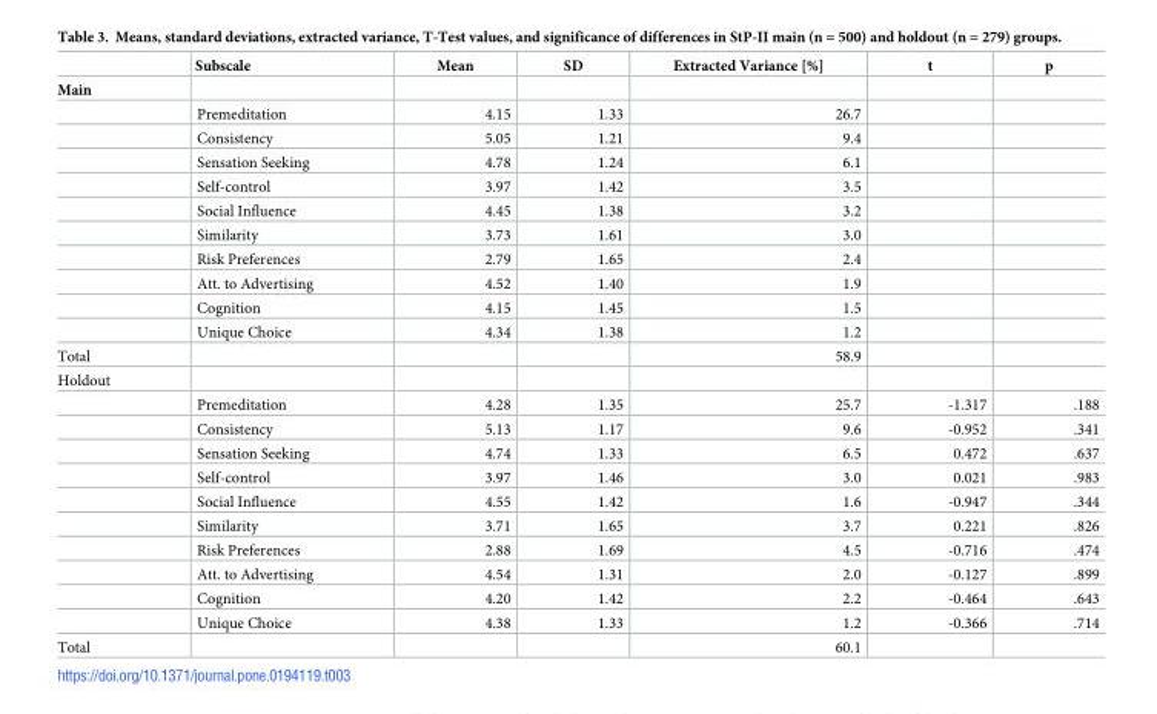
<table><thead><tr><td rowspan="2">Main</td><td rowspan="2">Subscale</td><td rowspan="2">Mean</td><td rowspan="2">SD</td><td rowspan="2">Extracted Variance [%]</td><td rowspan="2">t</td><td rowspan="2">p</td></tr><tr></tr></thead><tbody><tr><td></td><td>Premeditation</td><td>4.15</td><td>1.33</td><td>26.7</td><td></td><td></td></tr><tr><td></td><td>Consistency</td><td>5.05</td><td>1.21</td><td>9.4</td><td></td><td></td></tr><tr><td></td><td>Sensation Seeking</td><td>4.78</td><td>1.24</td><td>6.1</td><td></td><td></td></tr><tr><td></td><td>Self-control</td><td>3.97</td><td>1.42</td><td>3.5</td><td></td><td></td></tr><tr><td></td><td>Social Influence</td><td>4.45</td><td>1.38</td><td>3.2</td><td></td><td></td></tr><tr><td></td><td>Similarity</td><td>3.73</td><td>1.61</td><td>3.0</td><td></td><td></td></tr><tr><td></td><td>Risk Preferences</td><td>2.79</td><td>1.65</td><td>2.4</td><td></td><td></td></tr><tr><td></td><td>Att. to Advertising</td><td>4.52</td><td>1.40</td><td>1.9</td><td></td><td></td></tr><tr><td></td><td>Cognition</td><td>4.15</td><td>1.45</td><td>1.5</td><td></td><td></td></tr><tr><td></td><td>Unique Choice</td><td>4.34</td><td>1.38</td><td>1.2</td><td></td><td></td></tr><tr><td>Total</td><td></td><td></td><td></td><td>58.9</td><td></td><td></td></tr><tr><td colspan="7">Holdout</td></tr><tr><td></td><td>Premeditation</td><td>4.28</td><td>1.35</td><td>25.7</td><td>-1.317</td><td>.188</td></tr><tr><td></td><td>Consistency</td><td>5.13</td><td>1.17</td><td>9.6</td><td>-0.952</td><td>.341</td></tr><tr><td></td><td>Sensation Seeking</td><td>4.74</td><td>1.33</td><td>6.5</td><td>0.472</td><td>.637</td></tr><tr><td></td><td>Self-control</td><td>3.97</td><td>1.46</td><td>3.0</td><td>0.021</td><td>.983</td></tr><tr><td></td><td>Social Influence</td><td>4.55</td><td>1.42</td><td>1.6</td><td>-0.947</td><td>.344</td></tr><tr><td></td><td>Similarity</td><td>3.71</td><td>1.65</td><td>3.7</td><td>0.221</td><td>.826</td></tr><tr><td></td><td>Risk Preferences</td><td>2.88</td><td>1.69</td><td>4.5</td><td>-0.716</td><td>.474</td></tr><tr><td></td><td>Att. to Advertising</td><td>4.54</td><td>1.31</td><td>2.0</td><td>-0.127</td><td>.899</td></tr><tr><td></td><td>Cognition</td><td>4.20</td><td>1.42</td><td>2.2</td><td>-0.464</td><td>.643</td></tr><tr><td></td><td>Unique Choice</td><td>4.38</td><td>1.33</td><td>1.2</td><td>-0.366</td><td>.714</td></tr><tr><td>Total</td><td></td><td></td><td></td><td>60.1</td><td></td><td></td></tr></tbody></table>